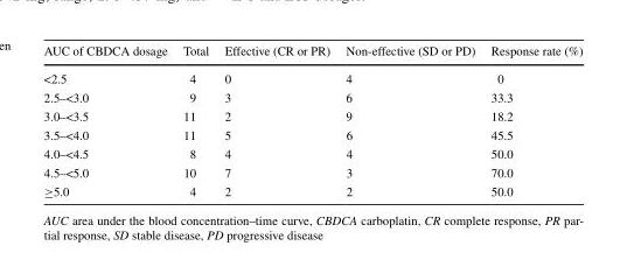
<table><thead><tr><td>AUC of CBDCA dosage</td><td>Total</td><td>Effective (CR or PR)</td><td>Non-effective (SD or PD)</td><td>Response rate (%)</td></tr></thead><tbody><tr><td>&lt;2.5</td><td>4</td><td>0</td><td>4</td><td>0</td></tr><tr><td>2.5–&lt;3.0</td><td>9</td><td>3</td><td>6</td><td>33.3</td></tr><tr><td>3.0–&lt;3.5</td><td>11</td><td>2</td><td>9</td><td>18.2</td></tr><tr><td>3.5–&lt;4.0</td><td>11</td><td>5</td><td>6</td><td>45.5</td></tr><tr><td>4.0–&lt;4.5</td><td>8</td><td>4</td><td>4</td><td>50.0</td></tr><tr><td>4.5–&lt;5.0</td><td>10</td><td>7</td><td>3</td><td>70.0</td></tr><tr><td>≥5.0</td><td>4</td><td>2</td><td>2</td><td>50.0</td></tr></tbody></table>